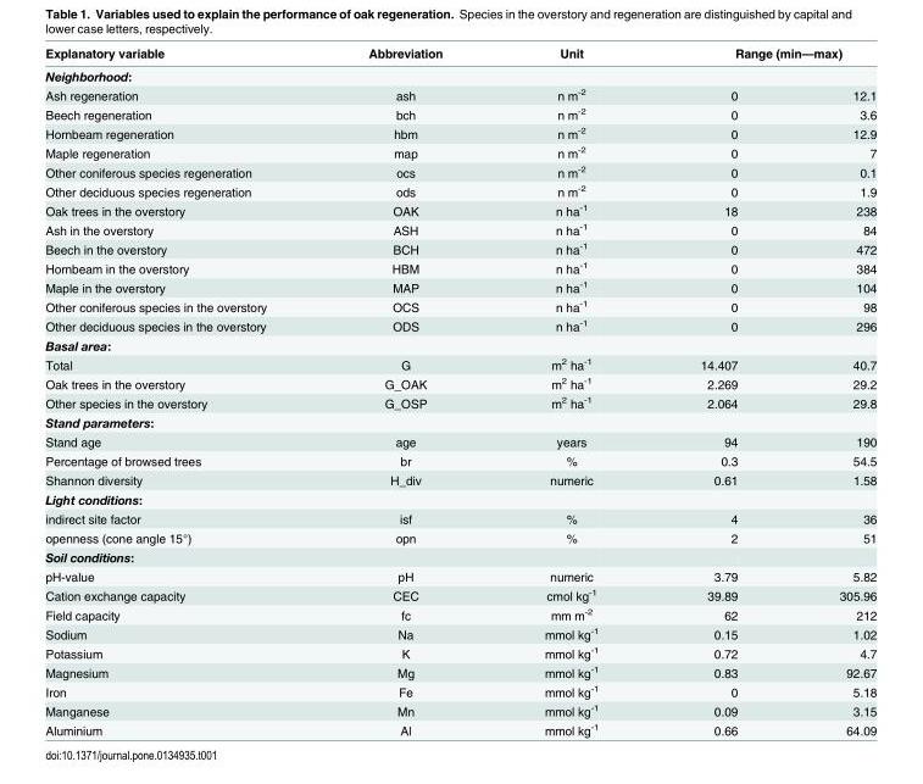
<table><thead><tr><td rowspan="2">Explanatory variable Neighborhood:</td><td rowspan="2">Abbreviation</td><td rowspan="2">Unit</td><td colspan="2">Range (min—max)</td></tr><tr><td></td><td></td></tr></thead><tbody><tr><td>Ash regeneration</td><td>ash</td><td>n m<sup>-2</sup></td><td>0</td><td>12.1</td></tr><tr><td>Beech regeneration</td><td>bch</td><td>n m<sup>-2</sup></td><td>0</td><td>3.6</td></tr><tr><td>Hornbeam regeneration</td><td>hbm</td><td>n m<sup>-2</sup></td><td>0</td><td>12.9</td></tr><tr><td>Maple regeneration</td><td>map</td><td>n m<sup>-2</sup></td><td>0</td><td>7</td></tr><tr><td>Other coniferous species regeneration</td><td>ocs</td><td>n m<sup>-2</sup></td><td>0</td><td>0.1</td></tr><tr><td>Other deciduous species regeneration</td><td>ods</td><td>n m<sup>-2</sup></td><td>0</td><td>1.9</td></tr><tr><td>Oak trees in the overstory</td><td>OAK</td><td>n ha<sup>-1</sup></td><td>18</td><td>238</td></tr><tr><td>Ash in the overstory</td><td>ASH</td><td>n ha<sup>-1</sup></td><td>0</td><td>84</td></tr><tr><td>Beech in the overstory</td><td>BCH</td><td>n ha<sup>-1</sup></td><td>0</td><td>472</td></tr><tr><td>Hornbeam in the overstory</td><td>HBM</td><td>n ha<sup>-1</sup></td><td>0</td><td>384</td></tr><tr><td>Maple in the overstory</td><td>MAP</td><td>n ha<sup>-1</sup></td><td>0</td><td>104</td></tr><tr><td>Other coniferous species in the overstory</td><td>OCS</td><td>n ha<sup>-1</sup></td><td>0</td><td>98</td></tr><tr><td>Other deciduous species in the overstory</td><td>ODS</td><td>n ha<sup>-1</sup></td><td>0</td><td>296</td></tr><tr><td colspan="5">Basal area:</td></tr><tr><td>Total</td><td>G</td><td>m<sup>2</sup> ha<sup>-1</sup></td><td>14.407</td><td>40.7</td></tr><tr><td>Oak trees in the overstory</td><td>G_OAK</td><td>m<sup>2</sup> ha<sup>-1</sup></td><td>2.269</td><td>29.2</td></tr><tr><td>Other species in the overstory</td><td>G_OSP</td><td>m<sup>2</sup> ha<sup>-1</sup></td><td>2.064</td><td>29.8</td></tr><tr><td colspan="5">Stand parameters:</td></tr><tr><td>Stand age</td><td>age</td><td>years</td><td>94</td><td>190</td></tr><tr><td>Percentage of browsed trees</td><td>br</td><td>%</td><td>0.3</td><td>54.5</td></tr><tr><td>Shannon diversity</td><td>H_div</td><td>numeric</td><td>0.61</td><td>1.58</td></tr><tr><td colspan="5">Light conditions:</td></tr><tr><td>indirect site factor</td><td>isf</td><td>%</td><td>4</td><td>36</td></tr><tr><td>openness (cone angle 15°)</td><td>opn</td><td>%</td><td>2</td><td>51</td></tr><tr><td colspan="5">Soil conditions:</td></tr><tr><td>pH-value</td><td>pH</td><td>numeric</td><td>3.79</td><td>5.82</td></tr><tr><td>Cation exchange capacity</td><td>CEC</td><td>cmol kg<sup>-1</sup></td><td>39.89</td><td>305.96</td></tr><tr><td>Field capacity</td><td>fc</td><td>mm m<sup>-2</sup></td><td>62</td><td>212</td></tr><tr><td>Sodium</td><td>Na</td><td>mmol kg<sup>-1</sup></td><td>0.15</td><td>1.02</td></tr><tr><td>Potassium</td><td>K</td><td>mmol kg<sup>-1</sup></td><td>0.72</td><td>4.7</td></tr><tr><td>Magnesium</td><td>Mg</td><td>mmol kg<sup>-1</sup></td><td>0.83</td><td>92.67</td></tr><tr><td>Iron</td><td>Fe</td><td>mmol kg<sup>-1</sup></td><td>0</td><td>5.18</td></tr><tr><td>Manganese</td><td>Mn</td><td>mmol kg<sup>-1</sup></td><td>0.09</td><td>3.15</td></tr><tr><td>Aluminium</td><td>Al</td><td>mmol kg<sup>-1</sup></td><td>0.66</td><td>64.09</td></tr></tbody></table>